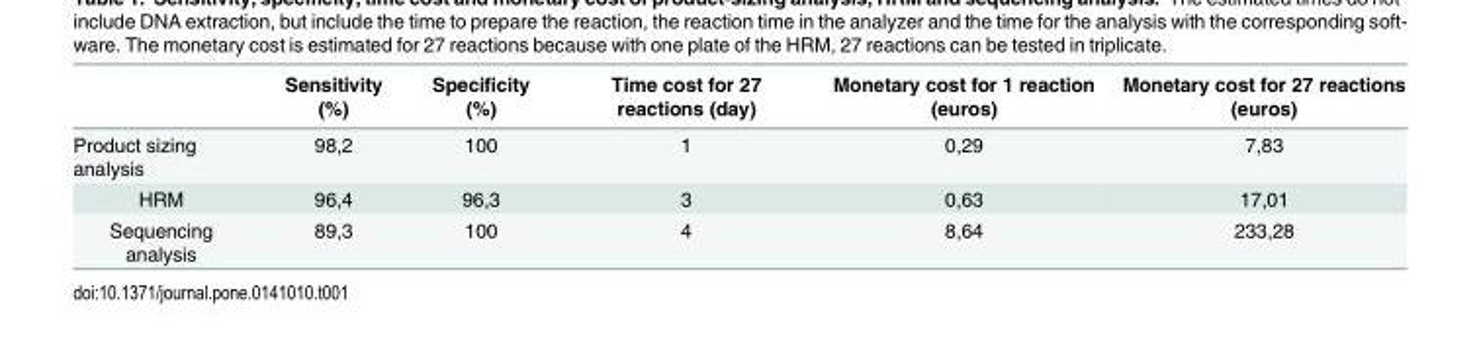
<table><thead><tr><td></td><td>Sensitivity (%)</td><td>Specificity (%)</td><td>Time cost for 27 reactions (day)</td><td>Monetary cost for 1 reaction (euros)</td><td>Monetary cost for 27 reactions (euros)</td></tr></thead><tbody><tr><td>Product sizing analysis</td><td>98,2</td><td>100</td><td>1</td><td>0,29</td><td>7,83</td></tr><tr><td>HRM</td><td>96,4</td><td>96,3</td><td>3</td><td>0,63</td><td>17,01</td></tr><tr><td>Sequencing analysis</td><td>89,3</td><td>100</td><td>4</td><td>8,64</td><td>233,28</td></tr></tbody></table>